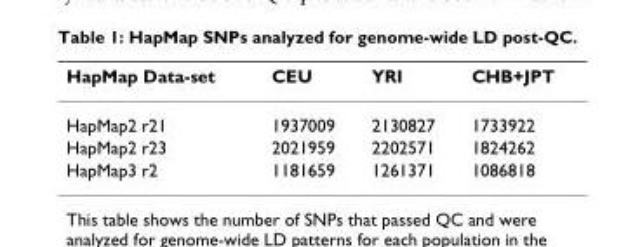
<table><thead><tr><td>HapMap Data-set</td><td>CEU</td><td>YRI</td><td>CHB+JPT</td></tr></thead><tbody><tr><td>HapMap2 r21</td><td>1937009</td><td>2130827</td><td>1733922</td></tr><tr><td>HapMap2 r23</td><td>2021959</td><td>2202571</td><td>1824262</td></tr><tr><td>HapMap3 r2</td><td>1181659</td><td>1261371</td><td>1086818</td></tr></tbody></table>